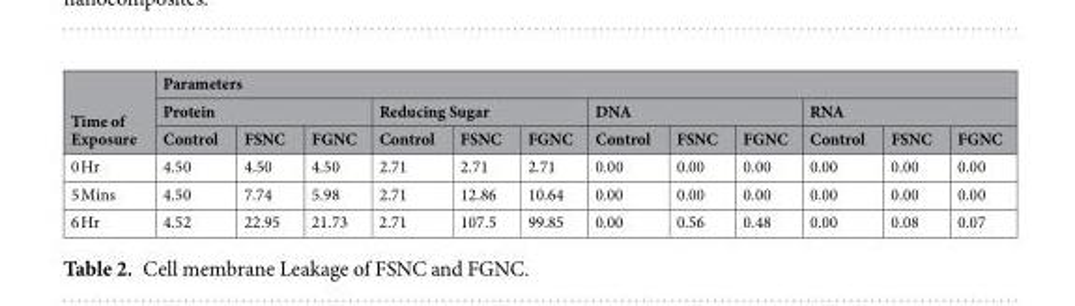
<table><thead><tr><td rowspan="3">Time of Exposure</td><td colspan="12">Parameters</td></tr><tr><td colspan="3">Protein</td><td colspan="3">Reducing Sugar</td><td colspan="3">DNA</td><td colspan="3">RNA</td></tr><tr><td>Control</td><td>FSNC</td><td>FGNC</td><td>Control</td><td>FSNC</td><td>FGNC</td><td>Control</td><td>FSNC</td><td>FGNC</td><td>Control</td><td>FSNC</td><td>FGNC</td></tr></thead><tbody><tr><td>0 Hr</td><td>4.50</td><td>4.50</td><td>4.50</td><td>2.71</td><td>2.71</td><td>2.71</td><td>0.00</td><td>0.00</td><td>0.00</td><td>0.00</td><td>0.00</td><td>0.00</td></tr><tr><td>5 Mins</td><td>4.50</td><td>7.74</td><td>5.98</td><td>2.71</td><td>12.86</td><td>10.64</td><td>0.00</td><td>0.00</td><td>0.00</td><td>0.00</td><td>0.00</td><td>0.00</td></tr><tr><td>6 Hr</td><td>4.52</td><td>22.95</td><td>21.73</td><td>2.71</td><td>107.5</td><td>99.85</td><td>0.00</td><td>0.56</td><td>0.48</td><td>0.00</td><td>0.08</td><td>0.07</td></tr></tbody></table>